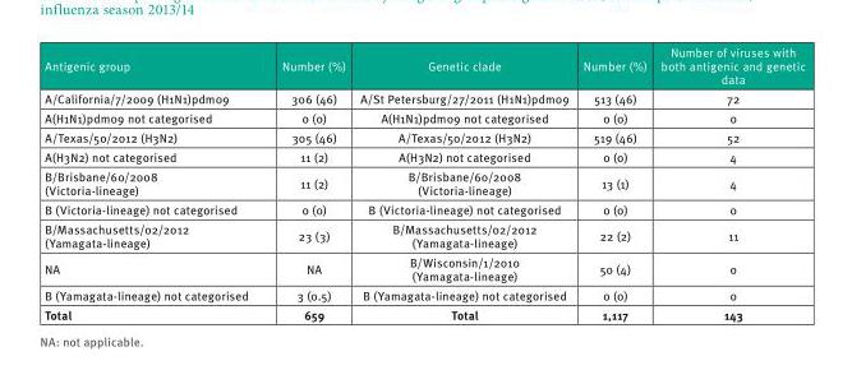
<table><thead><tr><td>Antigenic group</td><td>Number (%)</td><td>Genetic clade</td><td>Number (%)</td><td>Number of viruses with both antigenic and genetic data</td></tr></thead><tbody><tr><td>A/California/7/2009 (H1N1)pdm09</td><td>306 (46)</td><td>A/St Petersburg/27/2011 (H1N1)pdm09</td><td>513 (46)</td><td>72</td></tr><tr><td>A(H1N1)pdm09 not categorised</td><td>0 (0)</td><td>A(H1N1)pdm09 not categorised</td><td>0 (0)</td><td>0</td></tr><tr><td>A/Texas/50/2012 (H3N2)</td><td>305 (46)</td><td>A/Texas/50/2012 (H3N2)</td><td>519 (46)</td><td>52</td></tr><tr><td>A(H3N2) not categorised</td><td>11 (2)</td><td>A(H3N2) not categorised</td><td>0 (0)</td><td>4</td></tr><tr><td>B/Brisbane/60/2008 (Victoria-lineage)</td><td>11 (2)</td><td>B/Brisbane/60/2008 (Victoria-lineage)</td><td>13 (1)</td><td>4</td></tr><tr><td>B (Victoria-lineage) not categorised</td><td>0 (0)</td><td>B (Victoria-lineage) not categorised</td><td>0 (0)</td><td>0</td></tr><tr><td>B/Massachusetts/02/2012 (Yamagata-lineage)</td><td>23 (3)</td><td>B/Massachusetts/02/2012 (Yamagata-lineage)</td><td>22 (2)</td><td>11</td></tr><tr><td>NA</td><td>NA</td><td>B/Wisconsin/1/2010 (Yamagata-lineage)</td><td>50 (4)</td><td>0</td></tr><tr><td>B (Yamagata-lineage) not categorised</td><td>3 (0.5)</td><td>B (Yamagata-lineage) not categorised</td><td>0 (0)</td><td>0</td></tr><tr><td>Total</td><td>659</td><td>Total</td><td>1,117</td><td>143</td></tr></tbody></table>